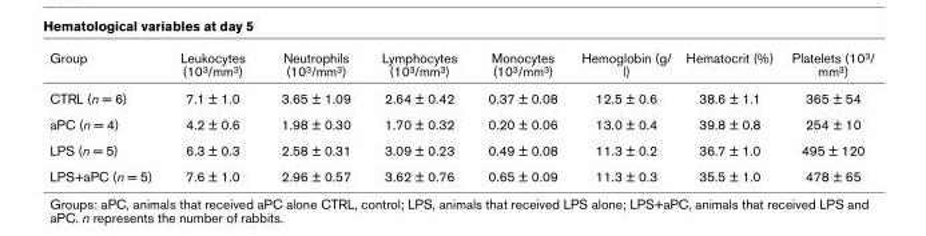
<table><thead><tr><td>Group</td><td>Leukocytes (103/mm3)</td><td>Neutrophils (103/mm3)</td><td>Lymphocytes (103/mm3)</td><td>Monocytes (103/mm3)</td><td>Hemoglobin (g/ l)</td><td>Hematocrit (%)</td><td>Platelets (103/ mm3)</td></tr></thead><tbody><tr><td>CTRL (n = 6)</td><td>7.1 ± 1.0</td><td>3.65 ± 1.09</td><td>2.64 ± 0.42</td><td>0.37 ± 0.08</td><td>12.5 ± 0.6</td><td>38.6 ± 1.1</td><td>365 ± 54</td></tr><tr><td>aPC (n = 4)</td><td>4.2 ± 0.6</td><td>1.98 ± 0.30</td><td>1.70 ± 0.32</td><td>0.20 ± 0.06</td><td>13.0 ± 0.4</td><td>39.8 ± 0.8</td><td>254 ± 10</td></tr><tr><td>LPS (n = 5)</td><td>6.3 ± 0.3</td><td>2.58 ± 0.31</td><td>3.09 ± 0.23</td><td>0.49 ± 0.08</td><td>11.3 ± 0.2</td><td>36.7 ± 1.0</td><td>495 ± 120</td></tr><tr><td>LPS+aPC (n = 5)</td><td>7.6 ± 1.0</td><td>2.96 ± 0.57</td><td>3.62 ± 0.76</td><td>0.65 ± 0.09</td><td>11.3 ± 0.3</td><td>35.5 ± 1.0</td><td>478 ± 65</td></tr></tbody></table>